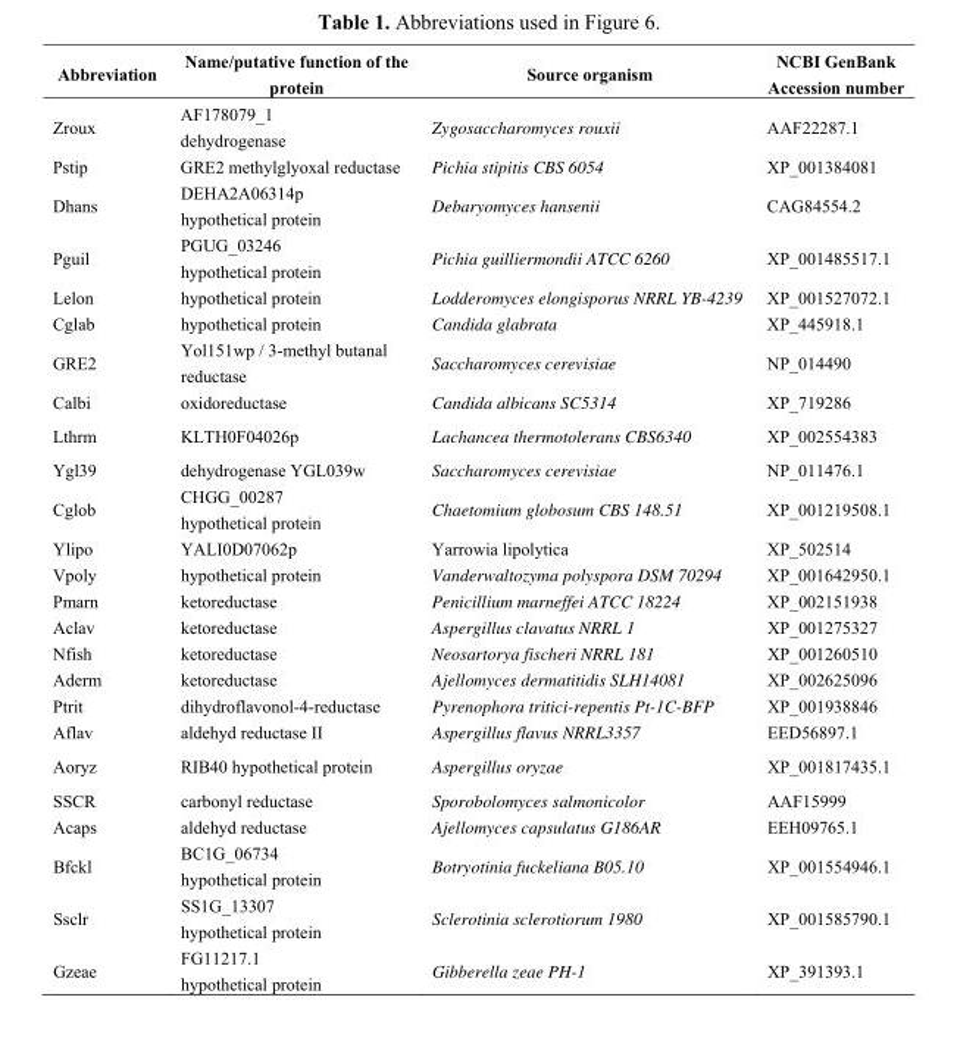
<table><thead><tr><td>Abbreviation</td><td>Name/putative function of the protein</td><td>Source organism</td><td>NCBI GenBank Accession number</td></tr></thead><tbody><tr><td>Zroux</td><td>AF178079_1 dehydrogenase</td><td>Zygosaccharomyces rouxii</td><td>AAF22287.1</td></tr><tr><td>Pstip</td><td>GRE2 methylglyoxal reductase</td><td>Pichia stipitis CBS 6054</td><td>XP_001384081</td></tr><tr><td>Dhans</td><td>DEHA2A06314p hypothetical protein</td><td>Debaryomyces hansenii</td><td>CAG84554.2</td></tr><tr><td>Pguil</td><td>PGUG_03246 hypothetical protein</td><td>Pichia guilliermondii ATCC 6260</td><td>XP_001485517.1</td></tr><tr><td>Lelon</td><td>hypothetical protein</td><td>Lodderomyces elongisporus NRRL YB-4239</td><td>XP_001527072.1</td></tr><tr><td>Cglab</td><td>hypothetical protein</td><td>Candida glabrata</td><td>XP_445918.1</td></tr><tr><td>GRE2</td><td>Yol151wp / 3-methyl butanal reductase</td><td>Saccharomyces cerevisiae</td><td>NP_014490</td></tr><tr><td>Calbi</td><td>oxidoreductase</td><td>Candida albicans SC5314</td><td>XP_719286</td></tr><tr><td>Lthrm</td><td>KLTH0F04026p</td><td>Lachancea thermotolerans CBS6340</td><td>XP_002554383</td></tr><tr><td>Ygl39</td><td>dehydrogenase YGL039w</td><td>Saccharomyces cerevisiae</td><td>NP_011476.1</td></tr><tr><td>Cglob</td><td>CHGG_00287 hypothetical protein</td><td>Chaetomium globosum CBS 148.51</td><td>XP_001219508.1</td></tr><tr><td>Ylipo</td><td>YALI0D07062p</td><td>Yarrowia lipolytica</td><td>XP_502514</td></tr><tr><td>Vpoly</td><td>hypothetical protein</td><td>Vanderwaltozyma polyspora DSM 70294</td><td>XP_001642950.1</td></tr><tr><td>Pmarn</td><td>ketoreductase</td><td>Penicillium marneffei ATCC 18224</td><td>XP_002151938</td></tr><tr><td>Aclav</td><td>ketoreductase</td><td>Aspergillus clavatus NRRL 1</td><td>XP_001275327</td></tr><tr><td>Nfish</td><td>ketoreductase</td><td>Neosartorya fischeri NRRL 181</td><td>XP_001260510</td></tr><tr><td>Aderm</td><td>ketoreductase</td><td>Ajellomyces dermatitidis SLH14081</td><td>XP_002625096</td></tr><tr><td>Ptrit</td><td>dihydroflavonol-4-reductase</td><td>Pyrenophora tritici-repentis Pt-1C-BFP</td><td>XP_001938846</td></tr><tr><td>Aflav</td><td>aldehyd reductase II</td><td>Aspergillus flavus NRRL3357</td><td>EED56897.1</td></tr><tr><td>Aoryz</td><td>RIB40 hypothetical protein</td><td>Aspergillus oryzae</td><td>XP_001817435.1</td></tr><tr><td>SSCR</td><td>carbonyl reductase</td><td>Sporobolomyces salmonicolor</td><td>AAF15999</td></tr><tr><td>Acaps</td><td>aldehyd reductase</td><td>Ajellomyces capsulatus G186AR</td><td>EEH09765.1</td></tr><tr><td>Bfckl</td><td>BC1G_06734 hypothetical protein</td><td>Botryotinia fuckeliana B05.10</td><td>XP_001554946.1</td></tr><tr><td>Ssclr</td><td>SS1G_13307 hypothetical protein</td><td>Sclerotinia sclerotiorum 1980</td><td>XP_001585790.1</td></tr><tr><td>Gzeae</td><td>FG11217.1 hypothetical protein</td><td>Gibberella zeae PH-1</td><td>XP_391393.1</td></tr></tbody></table>